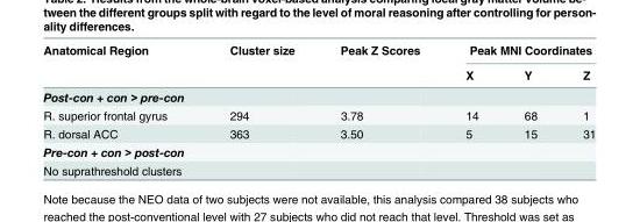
<table><thead><tr><td rowspan="2">Anatomical Region</td><td rowspan="2">Cluster size</td><td rowspan="2">Peak Z Scores</td><td colspan="3">Peak MNI Coordinates</td></tr><tr><td>X</td><td>Y</td><td>Z</td></tr></thead><tbody><tr><td colspan="6">Post-con + con &gt; pre-con</td></tr><tr><td>R. superior frontal gyrus</td><td>294</td><td>3.78</td><td>14</td><td>68</td><td>1</td></tr><tr><td>R. dorsal ACC</td><td>363</td><td>3.50</td><td>5</td><td>15</td><td>31</td></tr><tr><td colspan="6">Pre-con + con &gt; post-con</td></tr><tr><td>No suprathreshold clusters</td><td></td><td></td><td></td><td></td><td></td></tr></tbody></table>